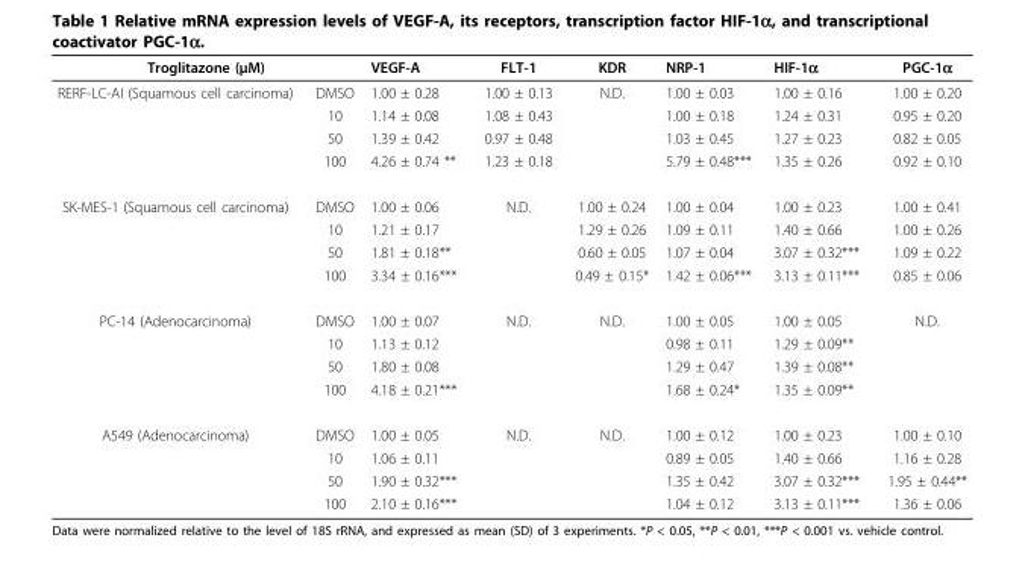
<table><thead><tr><td colspan="2">Troglitazone (μM)</td><td rowspan="2">VEGF-A 1.00 ± 0.28</td><td rowspan="2">FLT-1 1.00 ± 0.13</td><td rowspan="2">KDR N.D.</td><td rowspan="2">NRP-1 1.00 ± 0.03</td><td rowspan="2">HIF-1α 1.00 ± 0.16</td><td rowspan="2">PGC-1α 1.00 ± 0.20</td></tr><tr><td>RERF-LC-AI (Squamous cell carcinoma)</td><td>DMSO</td></tr></thead><tbody><tr><td></td><td>10</td><td>1.14 ± 0.08</td><td>1.08 ± 0.43</td><td></td><td>1.00 ± 0.18</td><td>1.24 ± 0.31</td><td>0.95 ± 0.20</td></tr><tr><td></td><td>50</td><td>1.39 ± 0.42</td><td>0.97 ± 0.48</td><td></td><td>1.03 ± 0.45</td><td>1.27 ± 0.23</td><td>0.82 ± 0.05</td></tr><tr><td></td><td>100</td><td>4.26 ± 0.74 **</td><td>1.23 ± 0.18</td><td></td><td>5.79 ± 0.48***</td><td>1.35 ± 0.26</td><td>0.92 ± 0.10</td></tr><tr><td rowspan="4">SK-MES-1 (Squamous cell carcinoma)</td><td>DMSO</td><td>1.00 ± 0.06</td><td>N.D.</td><td>1.00 ± 0.24</td><td>1.00 ± 0.04</td><td>1.00 ± 0.23</td><td>1.00 ± 0.41</td></tr><tr><td>10</td><td>1.21 ± 0.17</td><td></td><td>1.29 ± 0.26</td><td>1.09 ± 0.11</td><td>1.40 ± 0.66</td><td>1.00 ± 0.26</td></tr><tr><td>50</td><td>1.81 ± 0.18**</td><td></td><td>0.60 ± 0.05</td><td>1.07 ± 0.04</td><td>3.07 ± 0.32***</td><td>1.09 ± 0.22</td></tr><tr><td>100</td><td>3.34 ± 0.16***</td><td></td><td>0.49 ± 0.15*</td><td>1.42 ± 0.06***</td><td>3.13 ± 0.11***</td><td>0.85 ± 0.06</td></tr><tr><td rowspan="4">PC-14 (Adenocarcinoma)</td><td>DMSO</td><td>1.00 ± 0.07</td><td>N.D.</td><td>N.D.</td><td>1.00 ± 0.05</td><td>1.00 ± 0.05</td><td>N.D.</td></tr><tr><td>10</td><td>1.13 ± 0.12</td><td></td><td></td><td>0.98 ± 0.11</td><td>1.29 ± 0.09**</td><td></td></tr><tr><td>50</td><td>1.80 ± 0.08</td><td></td><td></td><td>1.29 ± 0.47</td><td>1.39 ± 0.08**</td><td></td></tr><tr><td>100</td><td>4.18 ± 0.21***</td><td></td><td></td><td>1.68 ± 0.24*</td><td>1.35 ± 0.09**</td><td></td></tr><tr><td rowspan="4">A549 (Adenocarcinoma)</td><td>DMSO</td><td>1.00 ± 0.05</td><td>N.D.</td><td>N.D.</td><td>1.00 ± 0.12</td><td>1.00 ± 0.23</td><td>1.00 ± 0.10</td></tr><tr><td>10</td><td>1.06 ± 0.11</td><td></td><td></td><td>0.89 ± 0.05</td><td>1.40 ± 0.66</td><td>1.16 ± 0.28</td></tr><tr><td>50</td><td>1.90 ± 0.32***</td><td></td><td></td><td>1.35 ± 0.42</td><td>3.07 ± 0.32***</td><td>1.95 ± 0.44**</td></tr><tr><td>100</td><td>2.10 ± 0.16***</td><td></td><td></td><td>1.04 ± 0.12</td><td>3.13 ± 0.11***</td><td>1.36 ± 0.06</td></tr></tbody></table>